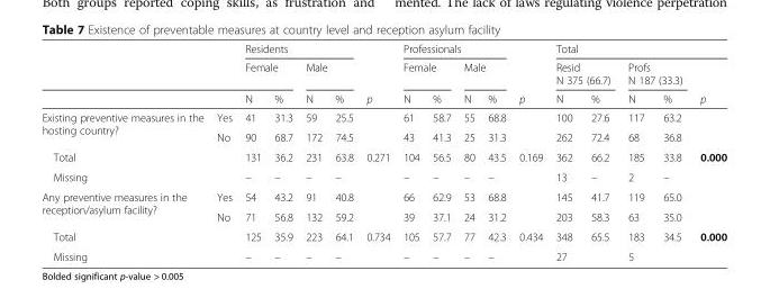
<table><thead><tr><td rowspan="3"></td><td rowspan="3"></td><td colspan="4">Residents</td><td rowspan="3">p</td><td colspan="4">Professionals</td><td rowspan="3">p</td><td colspan="5">Total</td></tr><tr><td colspan="2">Female</td><td colspan="2">Male</td><td colspan="2">Female</td><td colspan="2">Male</td><td colspan="2">Resid N 375 (66.7)</td><td colspan="2">Profs N 187 (33.3)</td><td rowspan="2">p</td></tr><tr><td>N</td><td>%</td><td>N</td><td>%</td><td>N</td><td>%</td><td>N</td><td>%</td><td>N</td><td>%</td><td>N</td><td>%</td></tr></thead><tbody><tr><td rowspan="2">Existing preventive measures in the hosting country?</td><td>Yes</td><td>41</td><td>31.3</td><td>59</td><td>25.5</td><td></td><td>61</td><td>58.7</td><td>55</td><td>68.8</td><td></td><td>100</td><td>27.6</td><td>117</td><td>63.2</td><td></td></tr><tr><td>No</td><td>90</td><td>68.7</td><td>172</td><td>74.5</td><td></td><td>43</td><td>41.3</td><td>25</td><td>31.3</td><td></td><td>262</td><td>72.4</td><td>68</td><td>36.8</td><td></td></tr><tr><td colspan="2">Total</td><td>131</td><td>36.2</td><td>231</td><td>63.8</td><td>0.271</td><td>104</td><td>56.5</td><td>80</td><td>43.5</td><td>0.169</td><td>362</td><td>66.2</td><td>185</td><td>33.8</td><td>0.000</td></tr><tr><td colspan="2">Missing</td><td>–</td><td>–</td><td>–</td><td>–</td><td></td><td>–</td><td>–</td><td>–</td><td>–</td><td></td><td>13</td><td>–</td><td>2</td><td>–</td><td></td></tr><tr><td rowspan="2">Any preventive measures in the reception/asylum facility?</td><td>Yes</td><td>54</td><td>43.2</td><td>91</td><td>40.8</td><td></td><td>66</td><td>62.9</td><td>53</td><td>68.8</td><td></td><td>145</td><td>41.7</td><td>119</td><td>65.0</td><td></td></tr><tr><td>No</td><td>71</td><td>56.8</td><td>132</td><td>59.2</td><td></td><td>39</td><td>37.1</td><td>24</td><td>31.2</td><td></td><td>203</td><td>58.3</td><td>63</td><td>35.0</td><td></td></tr><tr><td colspan="2">Total</td><td>125</td><td>35.9</td><td>223</td><td>64.1</td><td>0.734</td><td>105</td><td>57.7</td><td>77</td><td>42.3</td><td>0.434</td><td>348</td><td>65.5</td><td>183</td><td>34.5</td><td>0.000</td></tr><tr><td colspan="2">Missing</td><td>–</td><td>–</td><td>–</td><td>–</td><td></td><td>–</td><td>–</td><td>–</td><td>–</td><td></td><td colspan="2">27</td><td colspan="2">5</td><td></td></tr></tbody></table>